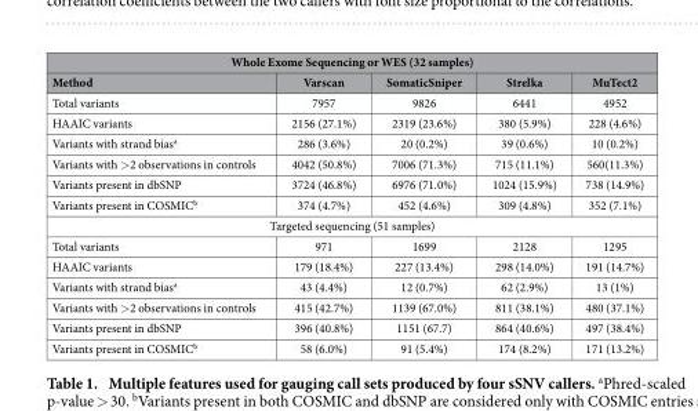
<table><thead><tr><td colspan="5">Whole Exome Sequencing or WES (32 samples)</td></tr><tr><td>Method</td><td>Varscan</td><td>SomaticSniper</td><td>Strelka</td><td>MuTect2</td></tr></thead><tbody><tr><td>Total variants</td><td>7957</td><td>9826</td><td>6441</td><td>4952</td></tr><tr><td>HAAIC variants</td><td>2156 (27.1%)</td><td>2319 (23.6%)</td><td>380 (5.9%)</td><td>228 (4.6%)</td></tr><tr><td>Variants with strand bias<sup>a</sup></td><td>286 (3.6%)</td><td>20 (0.2%)</td><td>39 (0.6%)</td><td>10 (0.2%)</td></tr><tr><td>Variants with &gt; 2 observations in controls</td><td>4042 (50.8%)</td><td>7006 (71.3%)</td><td>715 (11.1%)</td><td>560(11.3%)</td></tr><tr><td>Variants present in dbSNP</td><td>3724 (46.8%)</td><td>6976 (71.0%)</td><td>1024 (15.9%)</td><td>738 (14.9%)</td></tr><tr><td>Variants present in COSMIC<sup>b</sup></td><td>374 (4.7%)</td><td>452 (4.6%)</td><td>309 (4.8%)</td><td>352 (7.1%)</td></tr><tr><td colspan="5">Targeted sequencing (51 samples)</td></tr><tr><td>Total variants</td><td>971</td><td>1699</td><td>2128</td><td>1295</td></tr><tr><td>HAAIC variants</td><td>179 (18.4%)</td><td>227 (13.4%)</td><td>298 (14.0%)</td><td>191 (14.7%)</td></tr><tr><td>Variants with strand bias<sup>a</sup></td><td>43 (4.4%)</td><td>12 (0.7%)</td><td>62 (2.9%)</td><td>13 (1%)</td></tr><tr><td>Variants with &gt; 2 observations in controls</td><td>415 (42.7%)</td><td>1139 (67.0%)</td><td>811 (38.1%)</td><td>480 (37.1%)</td></tr><tr><td>Variants present in dbSNP</td><td>396 (40.8%)</td><td>1151 (67.7)</td><td>864 (40.6%)</td><td>497 (38.4%)</td></tr><tr><td>Variants present in COSMIC<sup>b</sup></td><td>58 (6.0%)</td><td>91 (5.4%)</td><td>174 (8.2%)</td><td>171 (13.2%)</td></tr></tbody></table>